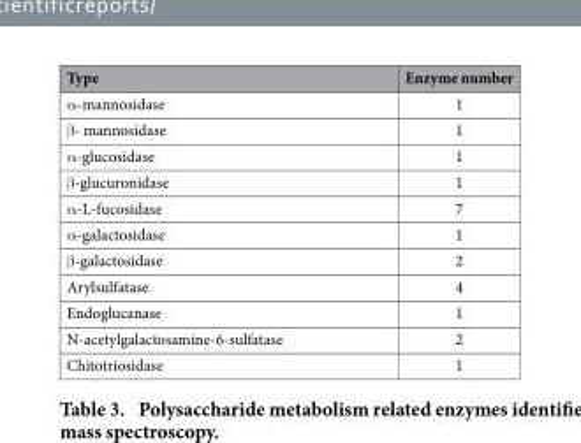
<table><thead><tr><td>Type</td><td>Enzyme number</td></tr></thead><tbody><tr><td>α -mannosidase</td><td>1</td></tr><tr><td>β - mannosidase</td><td>1</td></tr><tr><td>α -glucosidase</td><td>1</td></tr><tr><td>β -glucuronidase</td><td>1</td></tr><tr><td>α -L-fucosidase</td><td>7</td></tr><tr><td>α -galactosidase</td><td>1</td></tr><tr><td>β -galactosidase</td><td>2</td></tr><tr><td>Arylsulfatase</td><td>4</td></tr><tr><td>Endoglucanase</td><td>1</td></tr><tr><td>N-acetylgalactosamine-6-sulfatase</td><td>2</td></tr><tr><td>Chitotriosidase</td><td>1</td></tr></tbody></table>